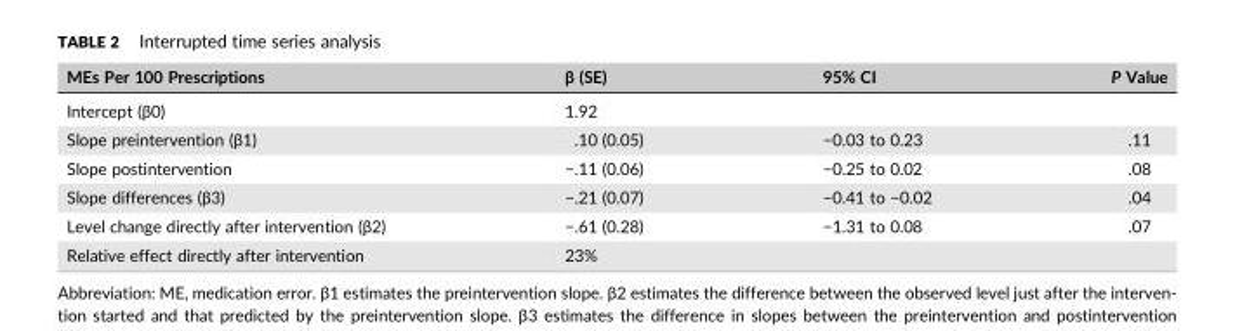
<table><thead><tr><td>MEs Per 100 Prescriptions</td><td>β (SE)</td><td>95% CI</td><td>P Value</td></tr></thead><tbody><tr><td>Intercept (β0)</td><td>1.92</td><td colspan="2"></td></tr><tr><td>Slope preintervention (β1)</td><td>.10 (0.05)</td><td>−0.03 to 0.23</td><td>.11</td></tr><tr><td>Slope postintervention</td><td>−.11 (0.06)</td><td>−0.25 to 0.02</td><td>.08</td></tr><tr><td>Slope differences (β3)</td><td>−.21 (0.07)</td><td>−0.41 to −0.02</td><td>.04</td></tr><tr><td>Level change directly after intervention (β2)</td><td>−.61 (0.28)</td><td>−1.31 to 0.08</td><td>.07</td></tr><tr><td>Relative effect directly after intervention</td><td>23%</td><td></td><td></td></tr></tbody></table>